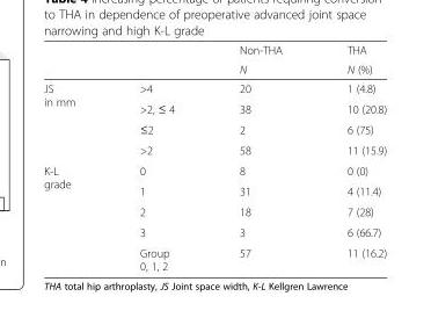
<table><thead><tr><td rowspan="2"></td><td rowspan="2"></td><td rowspan="2">Non-THA N</td><td rowspan="2">THA N (%)</td></tr><tr></tr></thead><tbody><tr><td rowspan="4">JS in mm</td><td>&gt;4</td><td>20</td><td>1 (4.8)</td></tr><tr><td>&gt;2, ≤ 4</td><td>38</td><td>10 (20.8)</td></tr><tr><td>≤2</td><td>2</td><td>6 (75)</td></tr><tr><td>&gt;2</td><td>58</td><td>11 (15.9)</td></tr><tr><td rowspan="5">K-L grade</td><td>0</td><td>8</td><td>0 (0)</td></tr><tr><td>1</td><td>31</td><td>4 (11.4)</td></tr><tr><td>2</td><td>18</td><td>7 (28)</td></tr><tr><td>3</td><td>3</td><td>6 (66.7)</td></tr><tr><td>Group 0, 1, 2</td><td>57</td><td>11 (16.2)</td></tr></tbody></table>